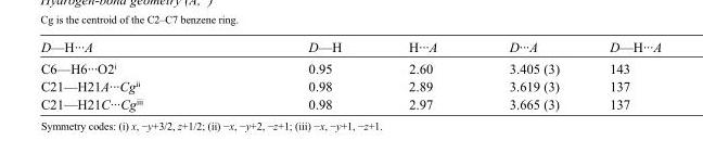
<table><tbody><tr><td>D—H···A</td><td>D—H</td><td>H···A</td><td>D···A</td><td>D—H···A</td></tr><tr><td>C6—H6···O2<sup>i</sup></td><td>0.95</td><td>2.60</td><td>3.405 (3)</td><td>143</td></tr><tr><td>C21—H21A···Cg<sup>ii</sup></td><td>0.98</td><td>2.89</td><td>3.619 (3)</td><td>137</td></tr><tr><td>C21—H21C···Cg<sup>iii</sup></td><td>0.98</td><td>2.97</td><td>3.665 (3)</td><td>137</td></tr></tbody></table>